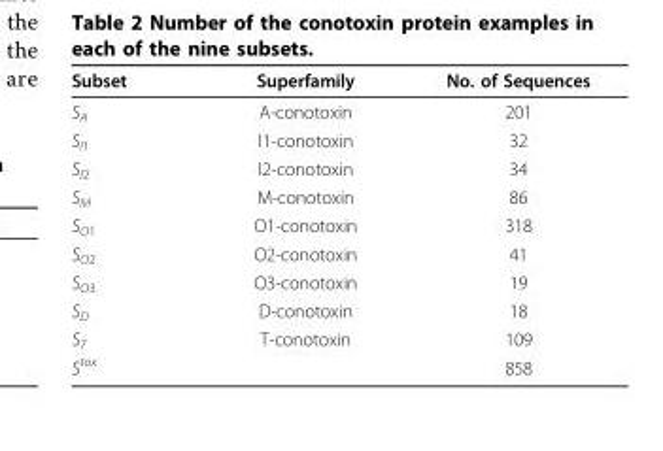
<table><thead><tr><td>Subset</td><td>Superfamily</td><td>No. of Sequences</td></tr></thead><tbody><tr><td>S<sub>A</sub></td><td>A-conotoxin</td><td>201</td></tr><tr><td>S<sub>I1</sub></td><td>I1-conotoxin</td><td>32</td></tr><tr><td>S<sub>I2</sub></td><td>I2-conotoxin</td><td>34</td></tr><tr><td>S<sub>M</sub></td><td>M-conotoxin</td><td>86</td></tr><tr><td>S<sub>O1</sub></td><td>O1-conotoxin</td><td>318</td></tr><tr><td>S<sub>O2</sub></td><td>O2-conotoxin</td><td>41</td></tr><tr><td>S<sub>O3</sub></td><td>O3-conotoxin</td><td>19</td></tr><tr><td>S<sub>D</sub></td><td>D-conotoxin</td><td>18</td></tr><tr><td>S<sub>T</sub></td><td>T-conotoxin</td><td>109</td></tr><tr><td>S<sup>tox</sup></td><td></td><td>858</td></tr></tbody></table>